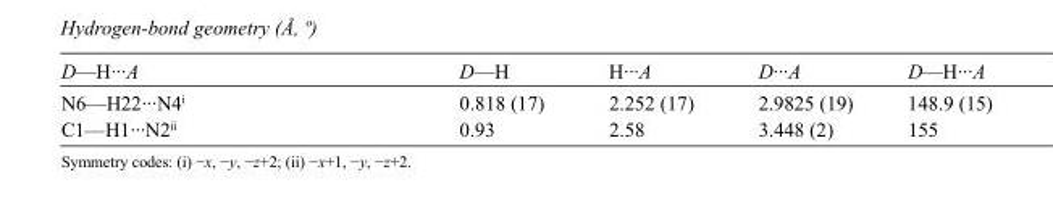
<table><tbody><tr><td>D—H···A</td><td>D—H</td><td>H···A</td><td>D···A</td><td>D—H···A</td></tr><tr><td>N6—H22···N4<sup>i</sup></td><td>0.818 (17)</td><td>2.252 (17)</td><td>2.9825 (19)</td><td>148.9 (15)</td></tr><tr><td>C1—H1···N2<sup>ii</sup></td><td>0.93</td><td>2.58</td><td>3.448 (2)</td><td>155</td></tr></tbody></table>